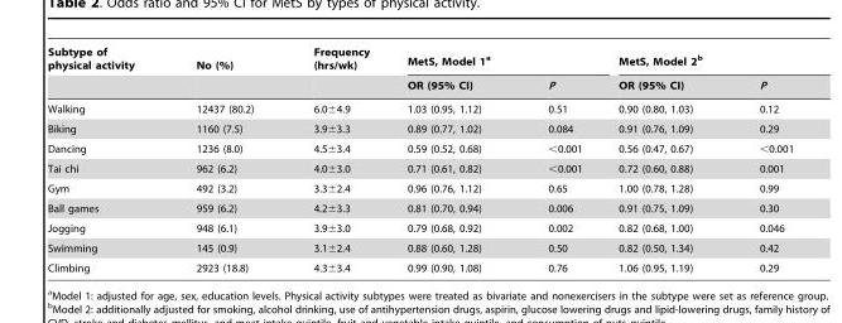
<table><thead><tr><td rowspan="2">Subtype of physical activity</td><td rowspan="2">No (%)</td><td rowspan="2">Frequency (hrs/wk)</td><td colspan="2">MetS, Model 1<sup>a</sup></td><td colspan="2">MetS, Model 2<sup>b</sup></td></tr><tr><td>OR (95% CI)</td><td>P</td><td>OR (95% CI)</td><td>P</td></tr></thead><tbody><tr><td>Walking</td><td>12437 (80.2)</td><td>6.0±4.9</td><td>1.03 (0.95, 1.12)</td><td>0.51</td><td>0.90 (0.80, 1.03)</td><td>0.12</td></tr><tr><td>Biking</td><td>1160 (7.5)</td><td>3.9±3.3</td><td>0.89 (0.77, 1.02)</td><td>0.084</td><td>0.91 (0.76, 1.09)</td><td>0.29</td></tr><tr><td>Dancing</td><td>1236 (8.0)</td><td>4.5±3.4</td><td>0.59 (0.52, 0.68)</td><td>&lt;0.001</td><td>0.56 (0.47, 0.67)</td><td>&lt;0.001</td></tr><tr><td>Tai chi</td><td>962 (6.2)</td><td>4.0±3.0</td><td>0.71 (0.61, 0.82)</td><td>&lt;0.001</td><td>0.72 (0.60, 0.88)</td><td>0.001</td></tr><tr><td>Gym</td><td>492 (3.2)</td><td>3.3±2.4</td><td>0.96 (0.76, 1.12)</td><td>0.65</td><td>1.00 (0.78, 1.28)</td><td>0.99</td></tr><tr><td>Ball games</td><td>959 (6.2)</td><td>4.2±3.3</td><td>0.81 (0.70, 0.94)</td><td>0.006</td><td>0.91 (0.75, 1.09)</td><td>0.30</td></tr><tr><td>Jogging</td><td>948 (6.1)</td><td>3.9±3.0</td><td>0.79 (0.68, 0.92)</td><td>0.002</td><td>0.82 (0.68, 1.00)</td><td>0.046</td></tr><tr><td>Swimming</td><td>145 (0.9)</td><td>3.1±2.4</td><td>0.88 (0.60, 1.28)</td><td>0.50</td><td>0.82 (0.50, 1.34)</td><td>0.42</td></tr><tr><td>Climbing</td><td>2923 (18.8)</td><td>4.3±3.4</td><td>0.99 (0.90, 1.08)</td><td>0.76</td><td>1.06 (0.95, 1.19)</td><td>0.29</td></tr></tbody></table>